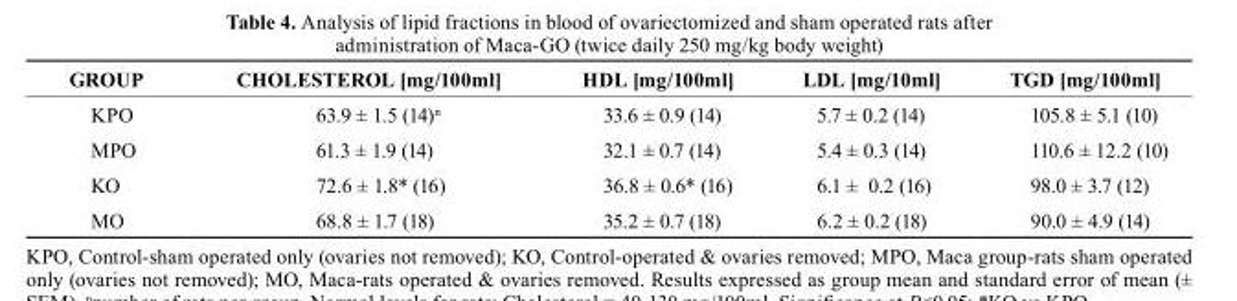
<table><thead><tr><td>GrOUP</td><td>cHOLEstErOL [mg/100ml]</td><td>HDL [mg/100ml]</td><td>LDL [mg/10ml]</td><td>tGD [mg/100ml]</td></tr></thead><tbody><tr><td>KPO</td><td>63.9 ± 1.5 (14)<sup>n</sup></td><td>33.6 ± 0.9 (14)</td><td>5.7 ± 0.2 (14)</td><td>105.8 ± 5.1 (10)</td></tr><tr><td>MPO</td><td>61.3 ± 1.9 (14)</td><td>32.1 ± 0.7 (14)</td><td>5.4 ± 0.3 (14)</td><td>110.6 ± 12.2 (10)</td></tr><tr><td>KO</td><td>72.6 ± 1.8* (16)</td><td>36.8 ± 0.6* (16)</td><td>6.1 ± 0.2 (16)</td><td>98.0 ± 3.7 (12)</td></tr><tr><td>MO</td><td>68.8 ± 1.7 (18)</td><td>35.2 ± 0.7 (18)</td><td>6.2 ± 0.2 (18)</td><td>90.0 ± 4.9 (14)</td></tr></tbody></table>